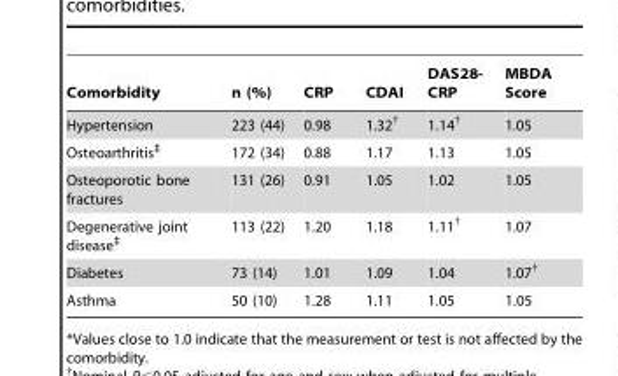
<table><thead><tr><td>Comorbidity</td><td>n (%)</td><td>CRP</td><td>CDAI</td><td>DAS28- CRP</td><td>MBDA Score</td></tr></thead><tbody><tr><td>Hypertension</td><td>223 (44)</td><td>0.98</td><td>1.32†</td><td>1.14†</td><td>1.05</td></tr><tr><td>Osteoarthritis‡</td><td>172 (34)</td><td>0.88</td><td>1.17</td><td>1.13</td><td>1.05</td></tr><tr><td>Osteoporotic bone fractures</td><td>131 (26)</td><td>0.91</td><td>1.05</td><td>1.02</td><td>1.05</td></tr><tr><td>Degenerative joint disease‡</td><td>113 (22)</td><td>1.20</td><td>1.18</td><td>1.11†</td><td>1.07</td></tr><tr><td>Diabetes</td><td>73 (14)</td><td>1.01</td><td>1.09</td><td>1.04</td><td>1.07†</td></tr><tr><td>Asthma</td><td>50 (10)</td><td>1.28</td><td>1.11</td><td>1.05</td><td>1.05</td></tr></tbody></table>